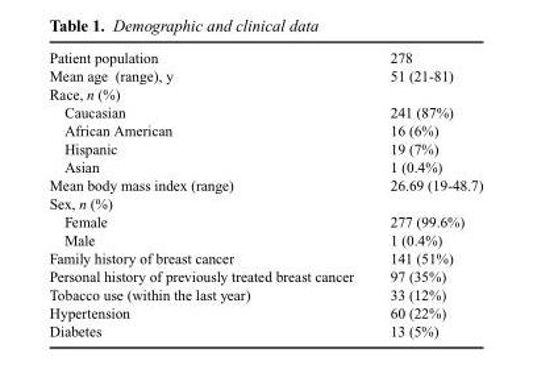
<table><tbody><tr><td>Patient population</td><td>278</td></tr><tr><td>Mean age (range), y</td><td>51 (21-81)</td></tr><tr><td colspan="2">Race, n (%)</td></tr><tr><td>Caucasian</td><td>241 (87%)</td></tr><tr><td>African American</td><td>16 (6%)</td></tr><tr><td>Hispanic</td><td>19 (7%)</td></tr><tr><td>Asian</td><td>1 (0.4%)</td></tr><tr><td>Mean body mass index (range)</td><td>26.69 (19-48.7)</td></tr><tr><td colspan="2">Sex, n (%)</td></tr><tr><td>Female</td><td>277 (99.6%)</td></tr><tr><td>Male</td><td>1 (0.4%)</td></tr><tr><td>Family history of breast cancer</td><td>141 (51%)</td></tr><tr><td>Personal history of previously treated breast cancer</td><td>97 (35%)</td></tr><tr><td>Tobacco use (within the last year)</td><td>33 (12%)</td></tr><tr><td>Hypertension</td><td>60 (22%)</td></tr><tr><td>Diabetes</td><td>13 (5%)</td></tr></tbody></table>